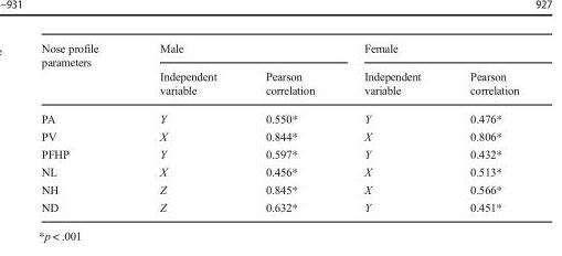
<table><thead><tr><td rowspan="2">Nose profile parameters</td><td colspan="2">Male</td><td colspan="2">Female</td></tr><tr><td>Independent variable</td><td>Pearson correlation</td><td>Independent variable</td><td>Pearson correlation</td></tr></thead><tbody><tr><td>PA</td><td>Y</td><td>0.550*</td><td>Y</td><td>0.476*</td></tr><tr><td>PV</td><td>X</td><td>0.844*</td><td>X</td><td>0.806*</td></tr><tr><td>PFHP</td><td>Y</td><td>0.597*</td><td>Y</td><td>0.432*</td></tr><tr><td>NL</td><td>X</td><td>0.456*</td><td>X</td><td>0.513*</td></tr><tr><td>NH</td><td>Z</td><td>0.845*</td><td>X</td><td>0.566*</td></tr><tr><td>ND</td><td>Z</td><td>0.632*</td><td>Y</td><td>0.451*</td></tr></tbody></table>